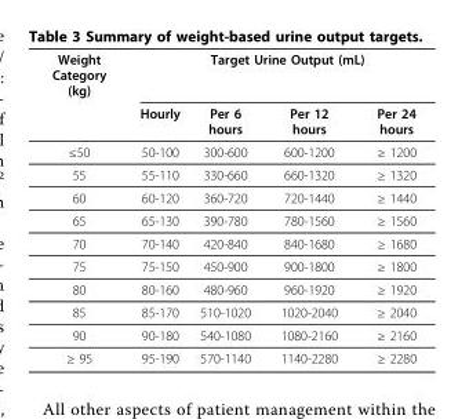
<table><thead><tr><td rowspan="2">Weight Category (kg)</td><td colspan="4">Target Urine Output (mL)</td></tr><tr><td>Hourly</td><td>Per 6 hours</td><td>Per 12 hours</td><td>Per 24 hours</td></tr></thead><tbody><tr><td>≤50</td><td>50-100</td><td>300-600</td><td>600-1200</td><td>≥ 1200</td></tr><tr><td>55</td><td>55-110</td><td>330-660</td><td>660-1320</td><td>≥ 1320</td></tr><tr><td>60</td><td>60-120</td><td>360-720</td><td>720-1440</td><td>≥ 1440</td></tr><tr><td>65</td><td>65-130</td><td>390-780</td><td>780-1560</td><td>≥ 1560</td></tr><tr><td>70</td><td>70-140</td><td>420-840</td><td>840-1680</td><td>≥ 1680</td></tr><tr><td>75</td><td>75-150</td><td>450-900</td><td>900-1800</td><td>≥ 1800</td></tr><tr><td>80</td><td>80-160</td><td>480-960</td><td>960-1920</td><td>≥ 1920</td></tr><tr><td>85</td><td>85-170</td><td>510-1020</td><td>1020-2040</td><td>≥ 2040</td></tr><tr><td>90</td><td>90-180</td><td>540-1080</td><td>1080-2160</td><td>≥ 2160</td></tr><tr><td>≥ 95</td><td>95-190</td><td>570-1140</td><td>1140-2280</td><td>≥ 2280</td></tr></tbody></table>